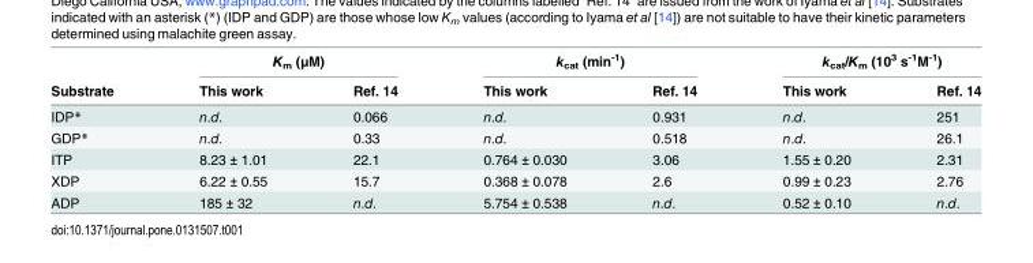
<table><thead><tr><td rowspan="2">Substrate</td><td colspan="2">K<sub>m</sub> (μM)</td><td colspan="2">k<sub>cat</sub> (min<sup>-1</sup>)</td><td colspan="2">k<sub>cat</sub>/K<sub>m</sub> (10<sup>3</sup> s<sup>-1</sup>M<sup>-1</sup>)</td></tr><tr><td>This work</td><td>Ref. 14</td><td>This work</td><td>Ref. 14</td><td>This work</td><td>Ref. 14</td></tr></thead><tbody><tr><td>IDP*</td><td>n.d.</td><td>0.066</td><td>n.d.</td><td>0.931</td><td>n.d.</td><td>251</td></tr><tr><td>GDP*</td><td>n.d.</td><td>0.33</td><td>n.d.</td><td>0.518</td><td>n.d.</td><td>26.1</td></tr><tr><td>ITP</td><td>8.23 ± 1.01</td><td>22.1</td><td>0.764 ± 0.030</td><td>3.06</td><td>1.55 ± 0.20</td><td>2.31</td></tr><tr><td>XDP</td><td>6.22 ± 0.55</td><td>15.7</td><td>0.368 ± 0.078</td><td>2.6</td><td>0.99 ± 0.23</td><td>2.76</td></tr><tr><td>ADP</td><td>185 ± 32</td><td>n.d.</td><td>5.754 ± 0.538</td><td>n.d.</td><td>0.52 ± 0.10</td><td>n.d.</td></tr></tbody></table>